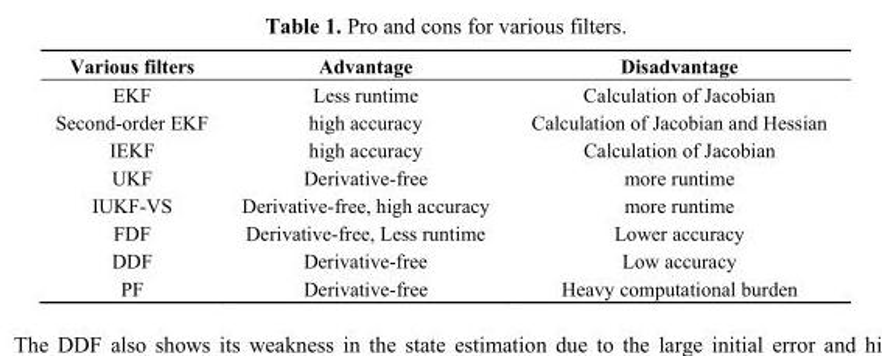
<table><thead><tr><td>Various filters</td><td>Advantage</td><td>Disadvantage</td></tr></thead><tbody><tr><td>EKF</td><td>Less runtime</td><td>Calculation of Jacobian</td></tr><tr><td>Second-order EKF</td><td>high accuracy</td><td>Calculation of Jacobian and Hessian</td></tr><tr><td>IEKF</td><td>high accuracy</td><td>Calculation of Jacobian</td></tr><tr><td>UKF</td><td>Derivative-free</td><td>more runtime</td></tr><tr><td>IUKF-VS</td><td>Derivative-free, high accuracy</td><td>more runtime</td></tr><tr><td>FDF</td><td>Derivative-free, Less runtime</td><td>Lower accuracy</td></tr><tr><td>DDF</td><td>Derivative-free</td><td>Low accuracy</td></tr><tr><td>PF</td><td>Derivative-free</td><td>Heavy computational burden</td></tr></tbody></table>